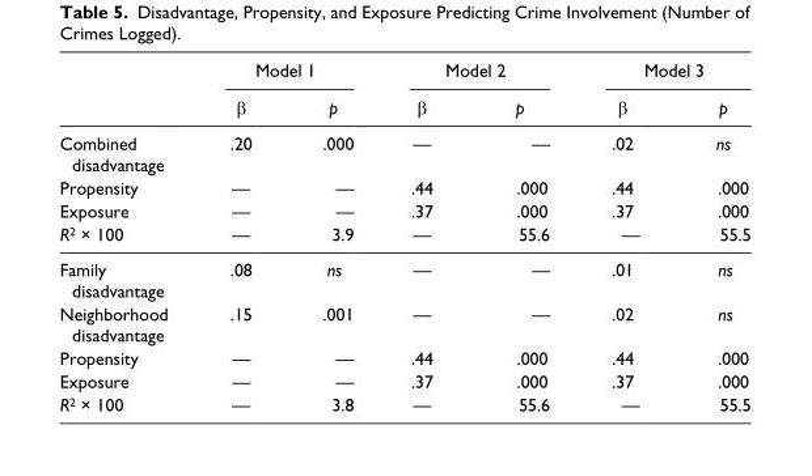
<table><thead><tr><td rowspan="2"></td><td colspan="2">Model 1</td><td colspan="2">Model 2</td><td colspan="2">Model 3</td></tr><tr><td>β</td><td>p</td><td>β</td><td>p</td><td>β</td><td>p</td></tr></thead><tbody><tr><td>Combined disadvantage</td><td>.20</td><td>.000</td><td>—</td><td>—</td><td>.02</td><td>ns</td></tr><tr><td>Propensity</td><td>—</td><td>—</td><td>.44</td><td>.000</td><td>.44</td><td>.000</td></tr><tr><td>Exposure</td><td>—</td><td>—</td><td>.37</td><td>.000</td><td>.37</td><td>.000</td></tr><tr><td>R<sup>2</sup> × 100</td><td>—</td><td>3.9</td><td>—</td><td>55.6</td><td>—</td><td>55.5</td></tr><tr><td>Family disadvantage</td><td>.08</td><td>ns</td><td>—</td><td>—</td><td>.01</td><td>ns</td></tr><tr><td>Neighborhood disadvantage</td><td>.15</td><td>.001</td><td>—</td><td>—</td><td>.02</td><td>ns</td></tr><tr><td>Propensity</td><td>—</td><td>—</td><td>.44</td><td>.000</td><td>.44</td><td>.000</td></tr><tr><td>Exposure</td><td>—</td><td>—</td><td>.37</td><td>.000</td><td>.37</td><td>.000</td></tr><tr><td>R<sup>2</sup> × 100</td><td>—</td><td>3.8</td><td>—</td><td>55.6</td><td>—</td><td>55.5</td></tr></tbody></table>